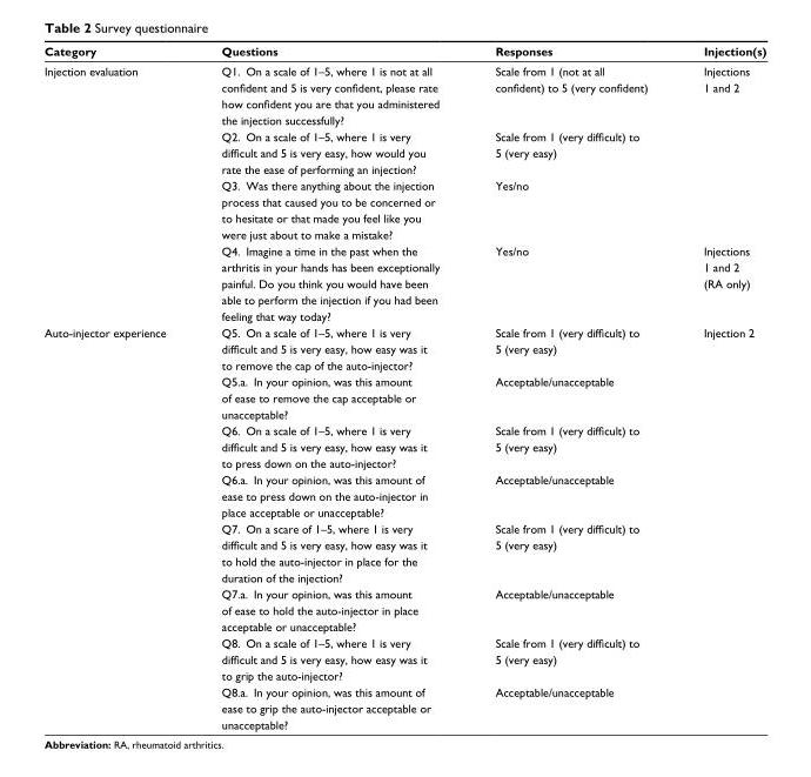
<table><thead><tr><td>Category</td><td>Questions</td><td>Responses</td><td>Injection(s)</td></tr></thead><tbody><tr><td rowspan="4">injection evaluation</td><td>Q1. On a scale of 1–5, where 1 is not at all confident and 5 is very confident, please rate how confident you are that you administered the injection successfully?</td><td>scale from 1 (not at all confident) to 5 (very confident)</td><td>injections 1 and 2</td></tr><tr><td>Q2. On a scale of 1–5, where 1 is very difficult and 5 is very easy, how would you rate the ease of performing an injection?</td><td>Scale from 1 (very difficult) to 5 (very easy)</td><td></td></tr><tr><td>Q3. Was there anything about the injection process that caused you to be concerned or to hesitate or that made you feel like you were just about to make a mistake?</td><td>Yes/no</td><td></td></tr><tr><td>Q4. imagine a time in the past when the arthritis in your hands has been exceptionally painful. Do you think you would have been able to perform the injection if you had been feeling that way today?</td><td>Yes/no</td><td>injections 1 and 2 (RA only)</td></tr><tr><td rowspan="8">Auto-injector experience</td><td>Q5. On a scale of 1–5, where 1 is very difficult and 5 is very easy, how easy was it to remove the cap of the auto-injector?</td><td>Scale from 1 (very difficult) to 5 (very easy)</td><td>injection 2</td></tr><tr><td>Q5.a. in your opinion, was this amount of ease to remove the cap acceptable or unacceptable?</td><td>Acceptable/unacceptable</td><td></td></tr><tr><td>Q6. On a scale of 1–5, where 1 is very difficult and 5 is very easy, how easy was it to press down on the auto-injector?</td><td>Scale from 1 (very difficult) to 5 (very easy)</td><td></td></tr><tr><td>Q6.a. in your opinion, was this amount of ease to press down on the auto-injector in place acceptable or unacceptable?</td><td>Acceptable/unacceptable</td><td></td></tr><tr><td>Q7. On a scare of 1–5, where 1 is very difficult and 5 is very easy, how easy was it to hold the auto-injector in place for the duration of the injection?</td><td>Scale from 1 (very difficult) to 5 (very easy)</td><td></td></tr><tr><td>Q7.a. in your opinion, was this amount of ease to hold the auto-injector in place acceptable or unacceptable?</td><td>Acceptable/unacceptable</td><td></td></tr><tr><td>Q8. On a scale of 1–5, where 1 is very difficult and 5 is very easy, how easy was it to grip the auto-injector?</td><td>Scale from 1 (very difficult) to 5 (very easy)</td><td></td></tr><tr><td>Q8.a. in your opinion, was this amount of ease to grip the auto-injector acceptable or unacceptable?</td><td>Acceptable/unacceptable</td><td></td></tr></tbody></table>